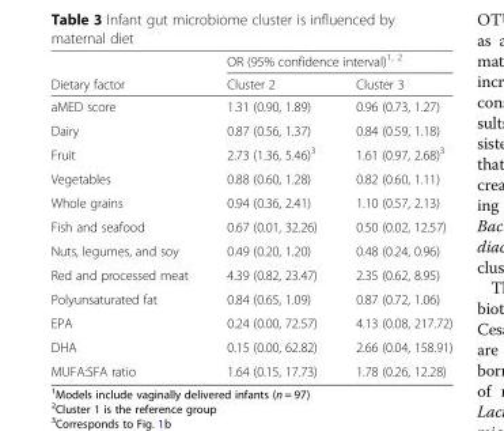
<table><thead><tr><td rowspan="2">Dietary factor</td><td colspan="2">OR (95% confidence interval)<sup>1, 2</sup></td></tr><tr><td>Cluster 2</td><td>Cluster 3</td></tr></thead><tbody><tr><td>aMED score</td><td>1.31 (0.90, 1.89)</td><td>0.96 (0.73, 1.27)</td></tr><tr><td>Dairy</td><td>0.87 (0.56, 1.37)</td><td>0.84 (0.59, 1.18)</td></tr><tr><td>Fruit</td><td>2.73 (1.36, 5.46)<sup>3</sup></td><td>1.61 (0.97, 2.68)<sup>3</sup></td></tr><tr><td>Vegetables</td><td>0.88 (0.60, 1.28)</td><td>0.82 (0.60, 1.11)</td></tr><tr><td>Whole grains</td><td>0.94 (0.36, 2.41)</td><td>1.10 (0.57, 2.13)</td></tr><tr><td>Fish and seafood</td><td>0.67 (0.01, 32.26)</td><td>0.50 (0.02, 12.57)</td></tr><tr><td>Nuts, legumes, and soy</td><td>0.49 (0.20, 1.20)</td><td>0.48 (0.24, 0.96)</td></tr><tr><td>Red and processed meat</td><td>4.39 (0.82, 23.47)</td><td>2.35 (0.62, 8.95)</td></tr><tr><td>Polyunsaturated fat</td><td>0.84 (0.65, 1.09)</td><td>0.87 (0.72, 1.06)</td></tr><tr><td>EPA</td><td>0.24 (0.00, 72.57)</td><td>4.13 (0.08, 217.72)</td></tr><tr><td>DHA</td><td>0.15 (0.00, 62.82)</td><td>2.66 (0.04, 158.91)</td></tr><tr><td>MUFA:SFA ratio</td><td>1.64 (0.15, 17.73)</td><td>1.78 (0.26, 12.28)</td></tr></tbody></table>